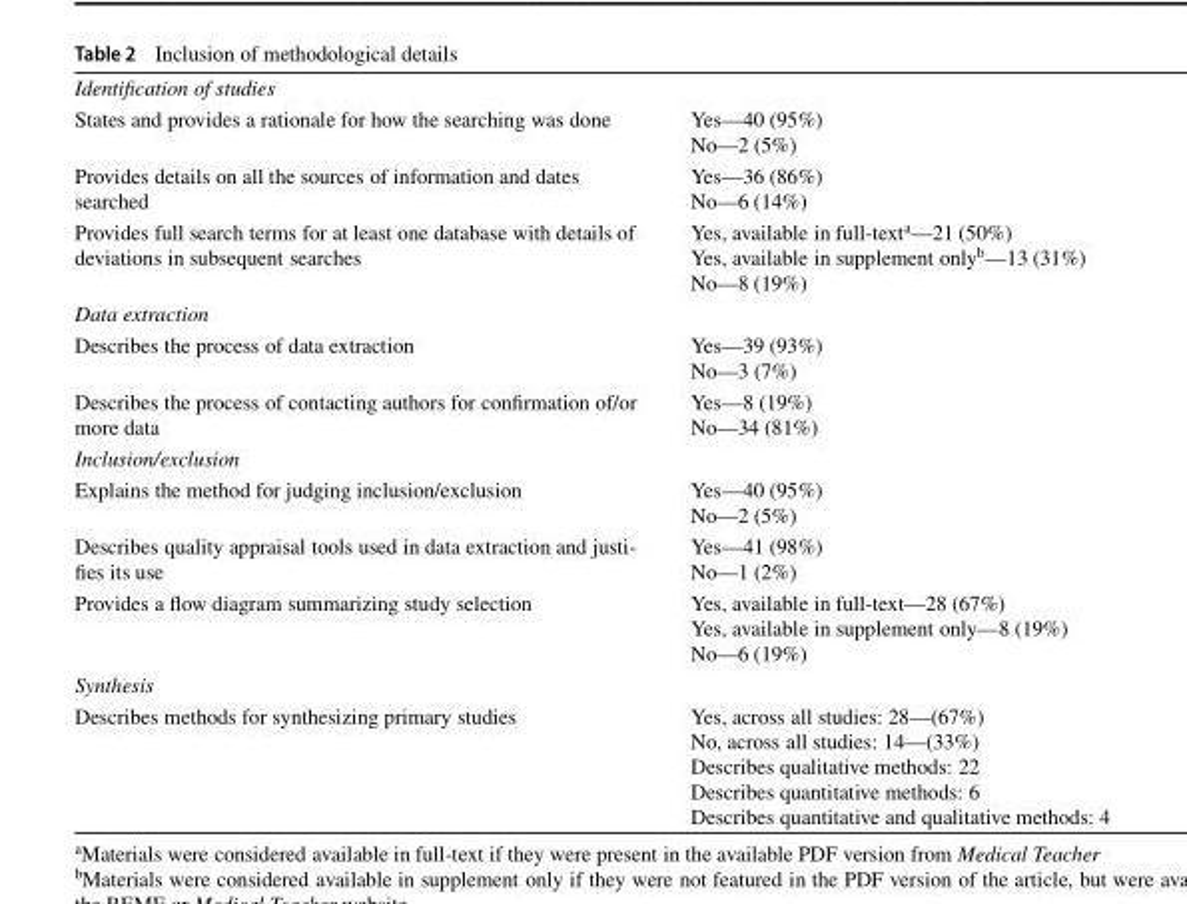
<table><tbody><tr><td colspan="2">Identification of studies</td></tr><tr><td>States and provides a rationale for how the searching was done</td><td>Yes—40 (95%) No—2 (5%)</td></tr><tr><td>Provides details on all the sources of information and dates searched</td><td>Yes—36 (86%) No—6 (14%)</td></tr><tr><td>Provides full search terms for at least one database with details of deviations in subsequent searches</td><td>Yes, available in full-text<sup>a</sup>—21 (50%) Yes, available in supplement only<sup>b</sup>—13 (31%) No—8 (19%)</td></tr><tr><td colspan="2">Data extraction</td></tr><tr><td>Describes the process of data extraction</td><td>Yes—39 (93%) No—3 (7%)</td></tr><tr><td>Describes the process of contacting authors for confirmation of/or more data</td><td>Yes—8 (19%) No—34 (81%)</td></tr><tr><td colspan="2">Inclusion/exclusion</td></tr><tr><td>Explains the method for judging inclusion/exclusion</td><td>Yes—40 (95%) No—2 (5%)</td></tr><tr><td>Describes quality appraisal tools used in data extraction and justi- fies its use</td><td>Yes—41 (98%) No—1 (2%)</td></tr><tr><td>Provides a flow diagram summarizing study selection</td><td>Yes, available in full-text—28 (67%) Yes, available in supplement only—8 (19%) No—6 (19%)</td></tr><tr><td colspan="2">Synthesis</td></tr><tr><td>Describes methods for synthesizing primary studies</td><td>Yes, across all studies: 28—(67%) No, across all studies: 14—(33%) Describes qualitative methods: 22 Describes quantitative methods: 6 Describes quantitative and qualitative methods: 4</td></tr></tbody></table>